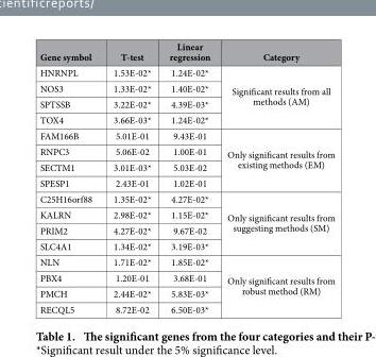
<table><thead><tr><td>Gene symbol</td><td>T-test</td><td>Linear regression</td><td>Category</td></tr></thead><tbody><tr><td>HNRNPL</td><td>1.53E-02*</td><td>1.24E-02*</td><td rowspan="4">Significant results from all methods (AM)</td></tr><tr><td>NOS3</td><td>1.33E-02*</td><td>1.40E-02*</td></tr><tr><td>SPTSSB</td><td>3.22E-02*</td><td>4.39E-03*</td></tr><tr><td>TOX4</td><td>3.66E-03*</td><td>1.24E-02*</td></tr><tr><td>FAM166B</td><td>5.01E-01</td><td>9.43E-01</td><td rowspan="4">Only significant results from existing methods (EM)</td></tr><tr><td>RNPC3</td><td>5.06E-02</td><td>1.00E-01</td></tr><tr><td>SECTM1</td><td>3.01E-03*</td><td>5.03E-02</td></tr><tr><td>SPESP1</td><td>2.43E-01</td><td>1.02E-01</td></tr><tr><td>C25H16orf88</td><td>1.35E-02*</td><td>4.27E-02*</td><td rowspan="4">Only significant results from suggesting methods (SM)</td></tr><tr><td>KALRN</td><td>2.98E-02*</td><td>1.15E-02*</td></tr><tr><td>PRIM2</td><td>4.27E-02*</td><td>9.67E-02</td></tr><tr><td>SLC4A1</td><td>1.34E-02*</td><td>3.19E-03*</td></tr><tr><td>NLN</td><td>1.71E-02*</td><td>1.85E-02*</td><td rowspan="4">Only significant results from robust method (RM)</td></tr><tr><td>PBX4</td><td>1.20E-01</td><td>3.68E-01</td></tr><tr><td>PMCH</td><td>2.44E-02*</td><td>5.83E-03*</td></tr><tr><td>RECQL5</td><td>8.72E-02</td><td>6.50E-03*</td></tr></tbody></table>